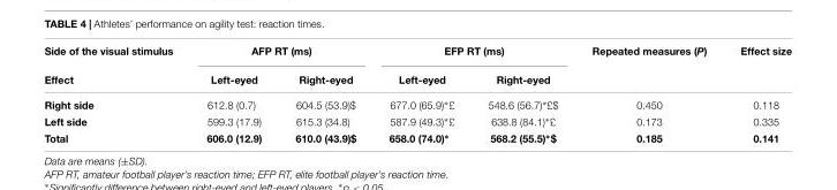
<table><thead><tr><td rowspan="2">Side of the visual stimulus Effect</td><td colspan="2">AFP RT (ms)</td><td colspan="2">EFP RT (ms)</td><td rowspan="2">Repeated measures (P)</td><td rowspan="2">Effect size</td></tr><tr><td>Left-eyed</td><td>Right-eyed</td><td>Left-eyed</td><td>Right-eyed</td></tr></thead><tbody><tr><td>Right side</td><td>612.8 (0.7)</td><td>604.5 (53.9)$</td><td>677.0 (65.9)∗£</td><td>548.6 (56.7)∗£$</td><td>0.450</td><td>0.118</td></tr><tr><td>Left side</td><td>599.3 (17.9)</td><td>615.3 (34.8)</td><td>587.9 (49.3)∗£</td><td>638.8 (84.1)∗£</td><td>0.173</td><td>0.335</td></tr><tr><td>Total</td><td>606.0 (12.9)</td><td>610.0 (43.9)$</td><td>658.0 (74.0)∗</td><td>568.2 (55.5)∗$</td><td>0.185</td><td>0.141</td></tr></tbody></table>